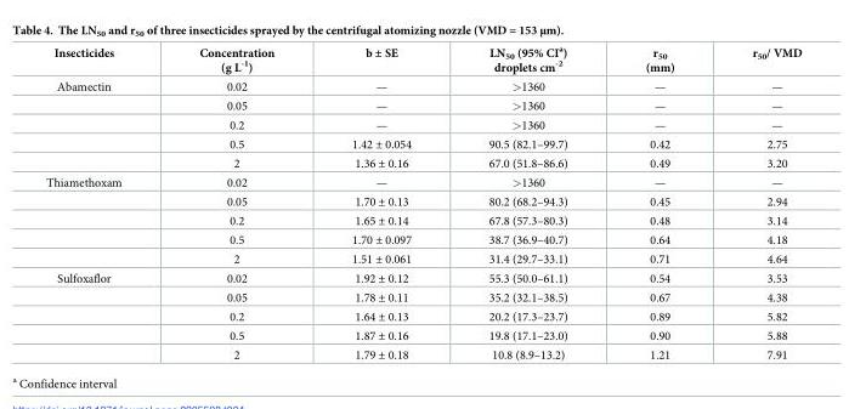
<table><thead><tr><td>Insecticides</td><td>Concentration (g L<sup>-1</sup>)</td><td>b ± SE</td><td>LN<sub>50</sub> (95% CI<sup>a</sup>) droplets cm<sup>-2</sup></td><td>r<sub>50</sub> (mm)</td><td>r<sub>50</sub>/ VMD</td></tr></thead><tbody><tr><td rowspan="5">Abamectin</td><td>0.02</td><td>—</td><td>&gt;1360</td><td>—</td><td>—</td></tr><tr><td>0.05</td><td>—</td><td>&gt;1360</td><td>—</td><td>—</td></tr><tr><td>0.2</td><td>—</td><td>&gt;1360</td><td>—</td><td>—</td></tr><tr><td>0.5</td><td>1.42 ± 0.054</td><td>90.5 (82.1–99.7)</td><td>0.42</td><td>2.75</td></tr><tr><td>2</td><td>1.36 ± 0.16</td><td>67.0 (51.8–86.6)</td><td>0.49</td><td>3.20</td></tr><tr><td rowspan="5">Thiamethoxam</td><td>0.02</td><td>—</td><td>&gt;1360</td><td>—</td><td>—</td></tr><tr><td>0.05</td><td>1.70 ± 0.13</td><td>80.2 (68.2–94.3)</td><td>0.45</td><td>2.94</td></tr><tr><td>0.2</td><td>1.65 ± 0.14</td><td>67.8 (57.3–80.3)</td><td>0.48</td><td>3.14</td></tr><tr><td>0.5</td><td>1.70 ± 0.097</td><td>38.7 (36.9–40.7)</td><td>0.64</td><td>4.18</td></tr><tr><td>2</td><td>1.51 ± 0.061</td><td>31.4 (29.7–33.1)</td><td>0.71</td><td>4.64</td></tr><tr><td rowspan="5">Sulfoxaflor</td><td>0.02</td><td>1.92 ± 0.12</td><td>55.3 (50.0–61.1)</td><td>0.54</td><td>3.53</td></tr><tr><td>0.05</td><td>1.78 ± 0.11</td><td>35.2 (32.1–38.5)</td><td>0.67</td><td>4.38</td></tr><tr><td>0.2</td><td>1.64 ± 0.13</td><td>20.2 (17.3–23.7)</td><td>0.89</td><td>5.82</td></tr><tr><td>0.5</td><td>1.87 ± 0.16</td><td>19.8 (17.1–23.0)</td><td>0.90</td><td>5.88</td></tr><tr><td>2</td><td>1.79 ± 0.18</td><td>10.8 (8.9–13.2)</td><td>1.21</td><td>7.91</td></tr></tbody></table>